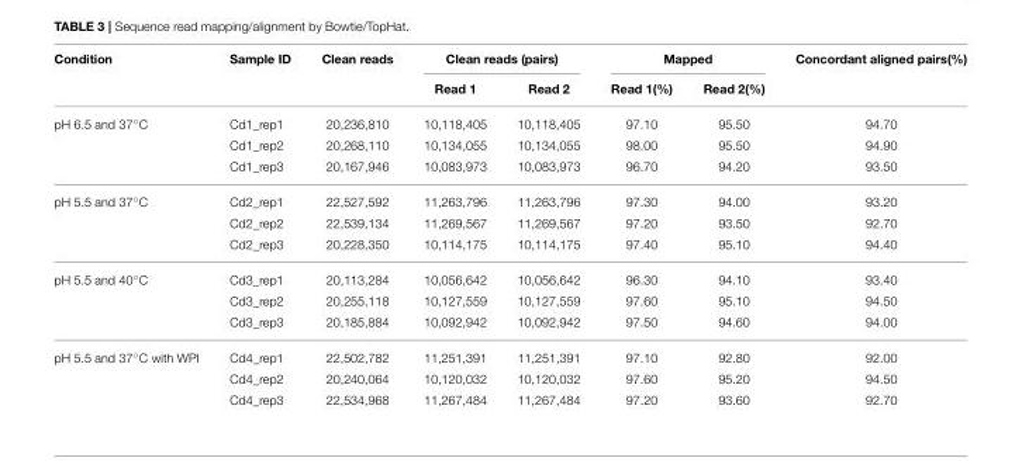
<table><thead><tr><td rowspan="2">Condition</td><td rowspan="2">Sample ID</td><td rowspan="2">Clean reads</td><td colspan="2">Clean reads (pairs)</td><td colspan="2">Mapped</td><td rowspan="2">Concordant aligned pairs(%)</td></tr><tr><td>Read 1</td><td>Read 2</td><td>Read 1(%)</td><td>Read 2(%)</td></tr></thead><tbody><tr><td rowspan="3">pH 6.5 and 37◦C</td><td>Cd1_rep1</td><td>20,236,810</td><td>10,118,405</td><td>10,118,405</td><td>97.10</td><td>95.50</td><td>94.70</td></tr><tr><td>Cd1_rep2</td><td>20,268,110</td><td>10,134,055</td><td>10,134,055</td><td>98.00</td><td>95.50</td><td>94.90</td></tr><tr><td>Cd1_rep3</td><td>20,167,946</td><td>10,083,973</td><td>10,083,973</td><td>96.70</td><td>94.20</td><td>93.50</td></tr><tr><td rowspan="3">pH 5.5 and 37◦C</td><td>Cd2_rep1</td><td>22,527,592</td><td>11,263,796</td><td>11,263,796</td><td>97.30</td><td>94.00</td><td>93.20</td></tr><tr><td>Cd2_rep2</td><td>22,539,134</td><td>11,269,567</td><td>11,269,567</td><td>97.20</td><td>93.50</td><td>92.70</td></tr><tr><td>Cd2_rep3</td><td>20,228,350</td><td>10,114,175</td><td>10,114,175</td><td>97.40</td><td>95.10</td><td>94.40</td></tr><tr><td rowspan="3">pH 5.5 and 40◦C</td><td>Cd3_rep1</td><td>20,113,284</td><td>10,056,642</td><td>10,056,642</td><td>96.30</td><td>94.10</td><td>93.40</td></tr><tr><td>Cd3_rep2</td><td>20,255,118</td><td>10,127,559</td><td>10,127,559</td><td>97.60</td><td>95.10</td><td>94.50</td></tr><tr><td>Cd3_rep3</td><td>20,185,884</td><td>10,092,942</td><td>10,092,942</td><td>97.50</td><td>94.60</td><td>94.00</td></tr><tr><td rowspan="3">pH 5.5 and 37◦C with WPI</td><td>Cd4_rep1</td><td>22,502,782</td><td>11,251,391</td><td>11,251,391</td><td>97.10</td><td>92.80</td><td>92.00</td></tr><tr><td>Cd4_rep2</td><td>20,240,064</td><td>10,120,032</td><td>10,120,032</td><td>97.60</td><td>95.20</td><td>94.50</td></tr><tr><td>Cd4_rep3</td><td>22,534,968</td><td>11,267,484</td><td>11,267,484</td><td>97.20</td><td>93.60</td><td>92.70</td></tr></tbody></table>